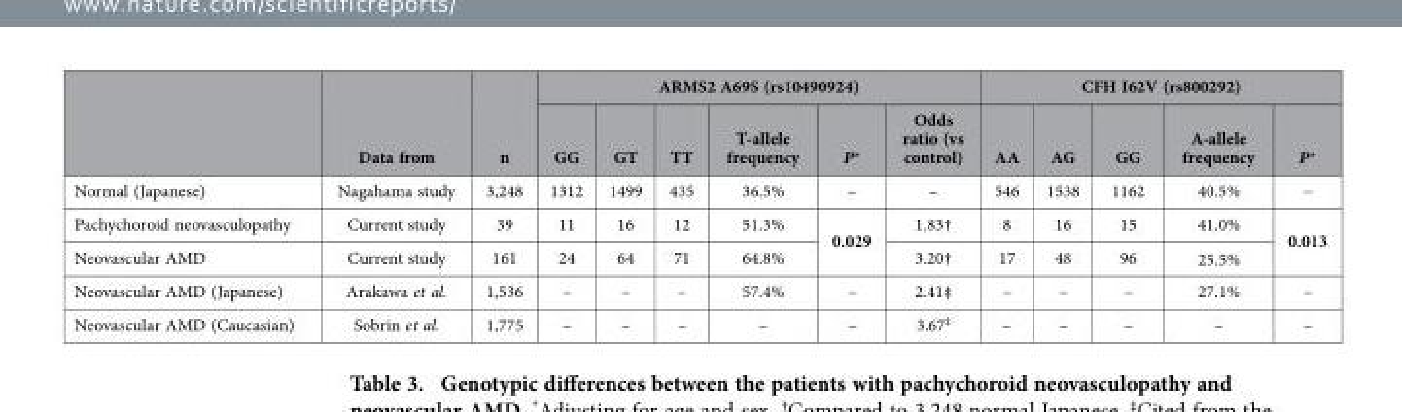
<table><thead><tr><td rowspan="2"></td><td rowspan="2">Data from</td><td rowspan="2">n</td><td colspan="6">ARMS2 A69S (rs10490924)</td><td colspan="5">CFH I62V (rs800292)</td></tr><tr><td>GG</td><td>GT</td><td>TT</td><td>T-allele frequency</td><td>P*</td><td>Odds ratio (vs control)</td><td>AA</td><td>AG</td><td>GG</td><td>A-allele frequency</td><td>P*</td></tr></thead><tbody><tr><td>Normal (Japanese)</td><td>Nagahama study</td><td>3,248</td><td>1312</td><td>1499</td><td>435</td><td>36.5%</td><td>–</td><td>–</td><td>546</td><td>1538</td><td>1162</td><td>40.5%</td><td>−</td></tr><tr><td>Pachychoroid neovasculopathy</td><td>Current study</td><td>39</td><td>11</td><td>16</td><td>12</td><td>51.3%</td><td rowspan="2">0.029</td><td>1.83†</td><td>8</td><td>16</td><td>15</td><td>41.0%</td><td rowspan="2">0.013</td></tr><tr><td>Neovascular AMD</td><td>Current study</td><td>161</td><td>24</td><td>64</td><td>71</td><td>64.8%</td><td>3.20†</td><td>17</td><td>48</td><td>96</td><td>25.5%</td></tr><tr><td>Neovascular AMD (Japanese)</td><td>Arakawa et al.</td><td>1,536</td><td>–</td><td>–</td><td>–</td><td>57.4%</td><td>–</td><td>2.41‡</td><td>–</td><td>–</td><td>–</td><td>27.1%</td><td>–</td></tr><tr><td>Neovascular AMD (Caucasian)</td><td>Sobrin et al.</td><td>1,775</td><td>–</td><td>–</td><td>–</td><td>–</td><td>–</td><td>3.67‡</td><td>–</td><td>–</td><td>–</td><td>–</td><td>–</td></tr></tbody></table>